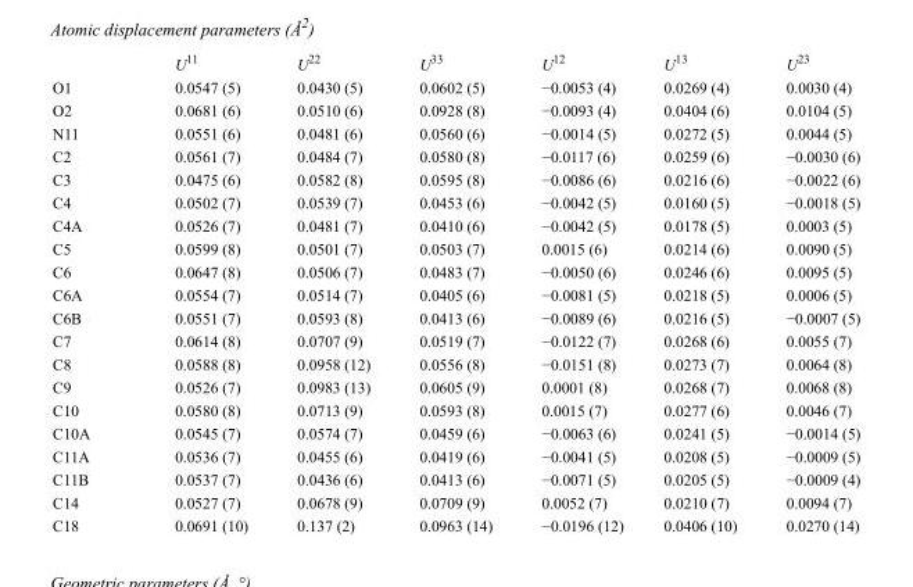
<table><thead><tr><td></td><td>U<sup>11</sup></td><td>U<sup>22</sup></td><td>U<sup>33</sup></td><td>U<sup>12</sup></td><td>U<sup>13</sup></td><td>U<sup>23</sup></td></tr></thead><tbody><tr><td>O1</td><td>0.0547 (5)</td><td>0.0430 (5)</td><td>0.0602 (5)</td><td>−0.0053 (4)</td><td>0.0269 (4)</td><td>0.0030 (4)</td></tr><tr><td>O2</td><td>0.0681 (6)</td><td>0.0510 (6)</td><td>0.0928 (8)</td><td>−0.0093 (4)</td><td>0.0404 (6)</td><td>0.0104 (5)</td></tr><tr><td>N11</td><td>0.0551 (6)</td><td>0.0481 (6)</td><td>0.0560 (6)</td><td>−0.0014 (5)</td><td>0.0272 (5)</td><td>0.0044 (5)</td></tr><tr><td>C2</td><td>0.0561 (7)</td><td>0.0484 (7)</td><td>0.0580 (8)</td><td>−0.0117 (6)</td><td>0.0259 (6)</td><td>−0.0030 (6)</td></tr><tr><td>C3</td><td>0.0475 (6)</td><td>0.0582 (8)</td><td>0.0595 (8)</td><td>−0.0086 (6)</td><td>0.0216 (6)</td><td>−0.0022 (6)</td></tr><tr><td>C4</td><td>0.0502 (7)</td><td>0.0539 (7)</td><td>0.0453 (6)</td><td>−0.0042 (5)</td><td>0.0160 (5)</td><td>−0.0018 (5)</td></tr><tr><td>C4A</td><td>0.0526 (7)</td><td>0.0481 (7)</td><td>0.0410 (6)</td><td>−0.0042 (5)</td><td>0.0178 (5)</td><td>0.0003 (5)</td></tr><tr><td>C5</td><td>0.0599 (8)</td><td>0.0501 (7)</td><td>0.0503 (7)</td><td>0.0015 (6)</td><td>0.0214 (6)</td><td>0.0090 (5)</td></tr><tr><td>C6</td><td>0.0647 (8)</td><td>0.0506 (7)</td><td>0.0483 (7)</td><td>−0.0050 (6)</td><td>0.0246 (6)</td><td>0.0095 (5)</td></tr><tr><td>C6A</td><td>0.0554 (7)</td><td>0.0514 (7)</td><td>0.0405 (6)</td><td>−0.0081 (5)</td><td>0.0218 (5)</td><td>0.0006 (5)</td></tr><tr><td>C6B</td><td>0.0551 (7)</td><td>0.0593 (8)</td><td>0.0413 (6)</td><td>−0.0089 (6)</td><td>0.0216 (5)</td><td>−0.0007 (5)</td></tr><tr><td>C7</td><td>0.0614 (8)</td><td>0.0707 (9)</td><td>0.0519 (7)</td><td>−0.0122 (7)</td><td>0.0268 (6)</td><td>0.0055 (7)</td></tr><tr><td>C8</td><td>0.0588 (8)</td><td>0.0958 (12)</td><td>0.0556 (8)</td><td>−0.0151 (8)</td><td>0.0273 (7)</td><td>0.0064 (8)</td></tr><tr><td>C9</td><td>0.0526 (7)</td><td>0.0983 (13)</td><td>0.0605 (9)</td><td>0.0001 (8)</td><td>0.0268 (7)</td><td>0.0068 (8)</td></tr><tr><td>C10</td><td>0.0580 (8)</td><td>0.0713 (9)</td><td>0.0593 (8)</td><td>0.0015 (7)</td><td>0.0277 (6)</td><td>0.0046 (7)</td></tr><tr><td>C10A</td><td>0.0545 (7)</td><td>0.0574 (7)</td><td>0.0459 (6)</td><td>−0.0063 (6)</td><td>0.0241 (5)</td><td>−0.0014 (5)</td></tr><tr><td>C11A</td><td>0.0536 (7)</td><td>0.0455 (6)</td><td>0.0419 (6)</td><td>−0.0041 (5)</td><td>0.0208 (5)</td><td>−0.0009 (5)</td></tr><tr><td>C11B</td><td>0.0537 (7)</td><td>0.0436 (6)</td><td>0.0413 (6)</td><td>−0.0071 (5)</td><td>0.0205 (5)</td><td>−0.0009 (4)</td></tr><tr><td>C14</td><td>0.0527 (7)</td><td>0.0678 (9)</td><td>0.0709 (9)</td><td>0.0052 (7)</td><td>0.0210 (7)</td><td>0.0094 (7)</td></tr><tr><td>C18</td><td>0.0691 (10)</td><td>0.137 (2)</td><td>0.0963 (14)</td><td>−0.0196 (12)</td><td>0.0406 (10)</td><td>0.0270 (14)</td></tr></tbody></table>